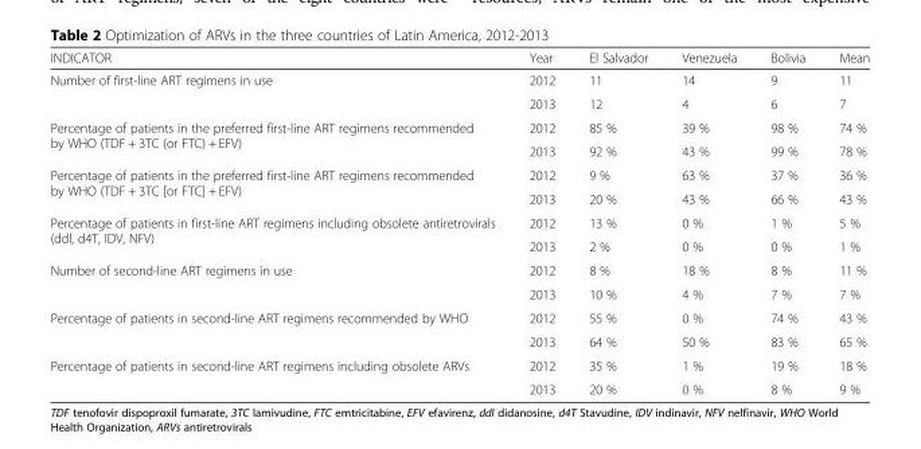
<table><thead><tr><td>INDICATOR</td><td>Year</td><td>El Salvador</td><td>Venezuela</td><td>Bolivia</td><td>Mean</td></tr></thead><tbody><tr><td rowspan="2">Number of first-line ART regimens in use</td><td>2012</td><td>11</td><td>14</td><td>9</td><td>11</td></tr><tr><td>2013</td><td>12</td><td>4</td><td>6</td><td>7</td></tr><tr><td rowspan="2">Percentage of patients in the preferred first-line ART regimens recommended by WHO (TDF + 3TC (or FTC) + EFV)</td><td>2012</td><td>85 %</td><td>39 %</td><td>98 %</td><td>74 %</td></tr><tr><td>2013</td><td>92 %</td><td>43 %</td><td>99 %</td><td>78 %</td></tr><tr><td rowspan="2">Percentage of patients in the preferred first-line ART regimens recommended by WHO (TDF + 3TC [or FTC] + EFV)</td><td>2012</td><td>9 %</td><td>63 %</td><td>37 %</td><td>36 %</td></tr><tr><td>2013</td><td>20 %</td><td>43 %</td><td>66 %</td><td>43 %</td></tr><tr><td rowspan="2">Percentage of patients in first-line ART regimens including obsolete antiretrovirals (ddl, d4T, IDV, NFV)</td><td>2012</td><td>13 %</td><td>0 %</td><td>1 %</td><td>5 %</td></tr><tr><td>2013</td><td>2 %</td><td>0 %</td><td>0 %</td><td>1 %</td></tr><tr><td rowspan="2">Number of second-line ART regimens in use</td><td>2012</td><td>8 %</td><td>18 %</td><td>8 %</td><td>11 %</td></tr><tr><td>2013</td><td>10 %</td><td>4 %</td><td>7 %</td><td>7 %</td></tr><tr><td rowspan="2">Percentage of patients in second-line ART regimens recommended by WHO</td><td>2012</td><td>55 %</td><td>0 %</td><td>74 %</td><td>43 %</td></tr><tr><td>2013</td><td>64 %</td><td>50 %</td><td>83 %</td><td>65 %</td></tr><tr><td rowspan="2">Percentage of patients in second-line ART regimens including obsolete ARVs</td><td>2012</td><td>35 %</td><td>1 %</td><td>19 %</td><td>18 %</td></tr><tr><td>2013</td><td>20 %</td><td>0 %</td><td>8 %</td><td>9 %</td></tr></tbody></table>